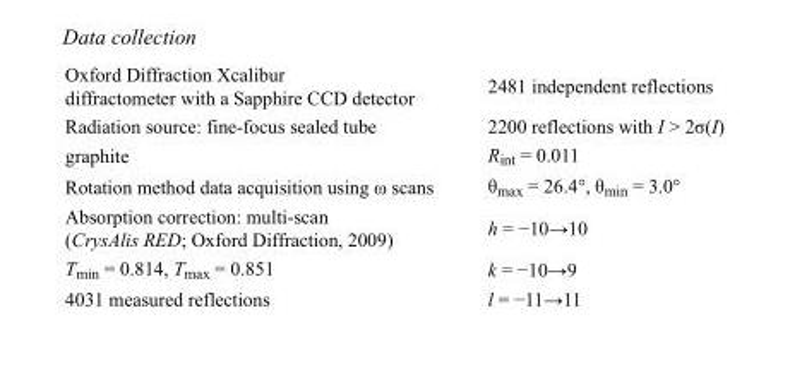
<table><tbody><tr><td>Oxford Diffraction Xcalibur diffractometer with a Sapphire CCD detector</td><td>2481 independent reflections</td></tr><tr><td>Radiation source: fine-focus sealed tube</td><td>2200 reflections with I &gt; 2σ(I)</td></tr><tr><td>graphite</td><td>R<sub>int</sub> = 0.011</td></tr><tr><td>Rotation method data acquisition using ω scans</td><td>θ<sub>max</sub> = 26.4°, θ<sub>min</sub> = 3.0°</td></tr><tr><td>Absorption correction: multi-scan (CrysAlis RED; Oxford Diffraction, 2009)</td><td>h = −10→10</td></tr><tr><td>T<sub>min</sub> = 0.814, T<sub>max</sub> = 0.851</td><td>k = −10→9</td></tr><tr><td>4031 measured reflections</td><td>l = −11→11</td></tr></tbody></table>